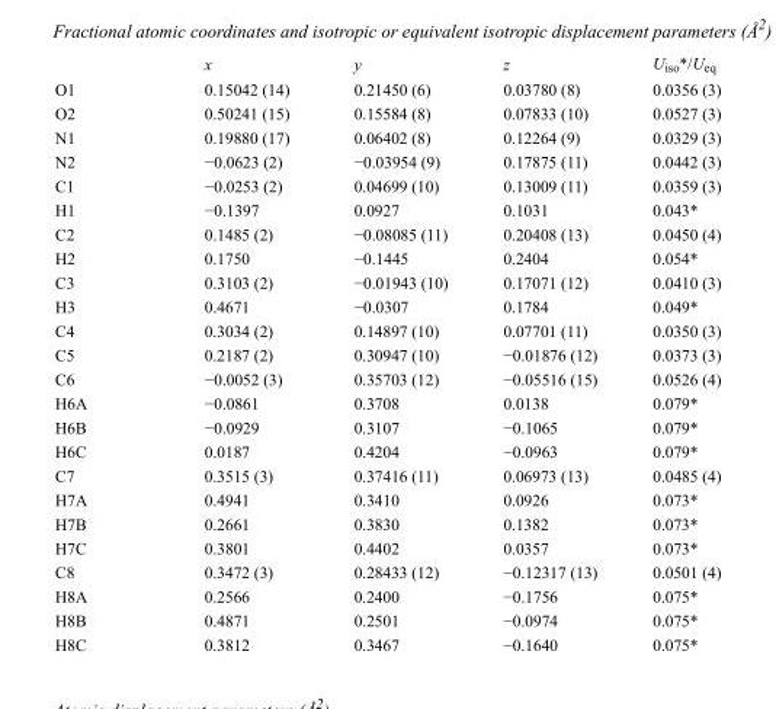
<table><thead><tr><td></td><td>x</td><td>y</td><td>z</td><td>U<sub>iso</sub>*/U<sub>eq</sub></td></tr></thead><tbody><tr><td>O1</td><td>0.15042 (14)</td><td>0.21450 (6)</td><td>0.03780 (8)</td><td>0.0356 (3)</td></tr><tr><td>O2</td><td>0.50241 (15)</td><td>0.15584 (8)</td><td>0.07833 (10)</td><td>0.0527 (3)</td></tr><tr><td>N1</td><td>0.19880 (17)</td><td>0.06402 (8)</td><td>0.12264 (9)</td><td>0.0329 (3)</td></tr><tr><td>N2</td><td>−0.0623 (2)</td><td>−0.03954 (9)</td><td>0.17875 (11)</td><td>0.0442 (3)</td></tr><tr><td>C1</td><td>−0.0253 (2)</td><td>0.04699 (10)</td><td>0.13009 (11)</td><td>0.0359 (3)</td></tr><tr><td>H1</td><td>−0.1397</td><td>0.0927</td><td>0.1031</td><td>0.043*</td></tr><tr><td>C2</td><td>0.1485 (2)</td><td>−0.08085 (11)</td><td>0.20408 (13)</td><td>0.0450 (4)</td></tr><tr><td>H2</td><td>0.1750</td><td>−0.1445</td><td>0.2404</td><td>0.054*</td></tr><tr><td>C3</td><td>0.3103 (2)</td><td>−0.01943 (10)</td><td>0.17071 (12)</td><td>0.0410 (3)</td></tr><tr><td>H3</td><td>0.4671</td><td>−0.0307</td><td>0.1784</td><td>0.049*</td></tr><tr><td>C4</td><td>0.3034 (2)</td><td>0.14897 (10)</td><td>0.07701 (11)</td><td>0.0350 (3)</td></tr><tr><td>C5</td><td>0.2187 (2)</td><td>0.30947 (10)</td><td>−0.01876 (12)</td><td>0.0373 (3)</td></tr><tr><td>C6</td><td>−0.0052 (3)</td><td>0.35703 (12)</td><td>−0.05516 (15)</td><td>0.0526 (4)</td></tr><tr><td>H6A</td><td>−0.0861</td><td>0.3708</td><td>0.0138</td><td>0.079*</td></tr><tr><td>H6B</td><td>−0.0929</td><td>0.3107</td><td>−0.1065</td><td>0.079*</td></tr><tr><td>H6C</td><td>0.0187</td><td>0.4204</td><td>−0.0963</td><td>0.079*</td></tr><tr><td>C7</td><td>0.3515 (3)</td><td>0.37416 (11)</td><td>0.06973 (13)</td><td>0.0485 (4)</td></tr><tr><td>H7A</td><td>0.4941</td><td>0.3410</td><td>0.0926</td><td>0.073*</td></tr><tr><td>H7B</td><td>0.2661</td><td>0.3830</td><td>0.1382</td><td>0.073*</td></tr><tr><td>H7C</td><td>0.3801</td><td>0.4402</td><td>0.0357</td><td>0.073*</td></tr><tr><td>C8</td><td>0.3472 (3)</td><td>0.28433 (12)</td><td>−0.12317 (13)</td><td>0.0501 (4)</td></tr><tr><td>H8A</td><td>0.2566</td><td>0.2400</td><td>−0.1756</td><td>0.075*</td></tr><tr><td>H8B</td><td>0.4871</td><td>0.2501</td><td>−0.0974</td><td>0.075*</td></tr><tr><td>H8C</td><td>0.3812</td><td>0.3467</td><td>−0.1640</td><td>0.075*</td></tr></tbody></table>